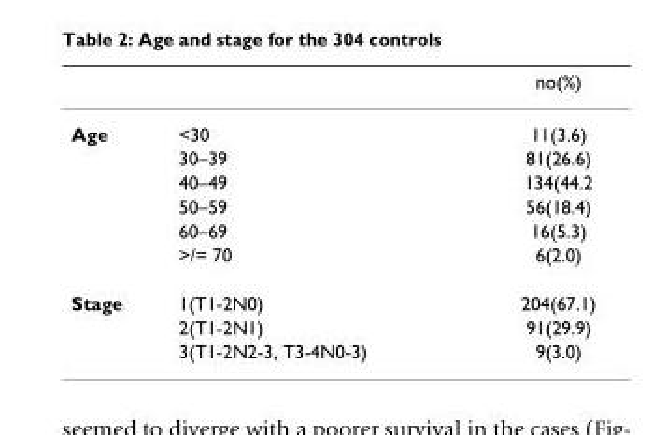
<table><thead><tr><td></td><td></td><td>no(%)</td></tr></thead><tbody><tr><td rowspan="6">Age</td><td>&lt;30</td><td>11(3.6)</td></tr><tr><td>30–39</td><td>81(26.6)</td></tr><tr><td>40–49</td><td>134(44.2</td></tr><tr><td>50–59</td><td>56(18.4)</td></tr><tr><td>60–69</td><td>16(5.3)</td></tr><tr><td>&gt;/= 70</td><td>6(2.0)</td></tr><tr><td rowspan="3">Stage</td><td>1(T1-2N0)</td><td>204(67.1)</td></tr><tr><td>2(T1-2N1)</td><td>91(29.9)</td></tr><tr><td>3(T1-2N2-3, T3-4N0-3)</td><td>9(3.0)</td></tr></tbody></table>